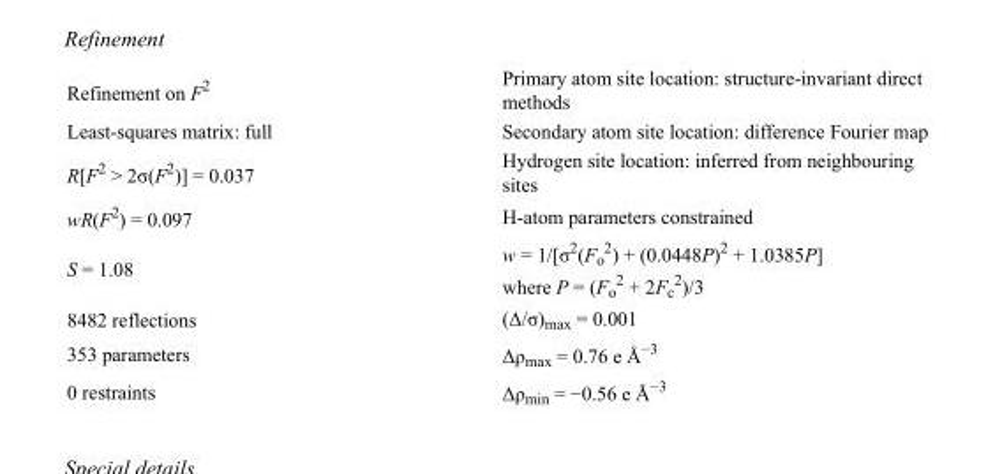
<table><tbody><tr><td>Refinement on F<sup>2</sup></td><td>Primary atom site location: structure-invariant direct methods</td></tr><tr><td>Least-squares matrix: full</td><td>Secondary atom site location: difference Fourier map</td></tr><tr><td>R[F<sup>2</sup> &gt; 2σ(F<sup>2</sup>)] = 0.037</td><td>Hydrogen site location: inferred from neighbouring sites</td></tr><tr><td>wR(F<sup>2</sup>) = 0.097</td><td>H-atom parameters constrained</td></tr><tr><td>S = 1.08</td><td>w = 1/[σ<sup>2</sup>(F<sub>o</sub> <sup>2</sup>) + (0.0448P)<sup>2</sup> + 1.0385P] where P = (F<sub>o</sub> <sup>2</sup> + 2F<sub>c</sub> <sup>2</sup>)/3</td></tr><tr><td>8482 reflections</td><td>(Δ/σ)<sub>max</sub> = 0.001</td></tr><tr><td>353 parameters</td><td>Δρ<sub>max</sub> = 0.76 e Å<sup>−3</sup></td></tr><tr><td>0 restraints</td><td>Δρ<sub>min</sub> = −0.56 e Å<sup>−3</sup></td></tr></tbody></table>